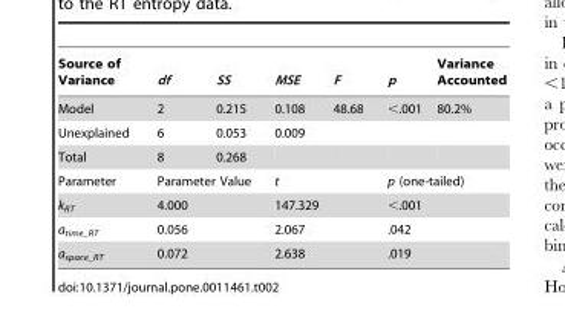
<table><thead><tr><td>Source of Variance</td><td>df</td><td>SS</td><td>MSE</td><td>F</td><td>p</td><td>Variance Accounted</td></tr></thead><tbody><tr><td>Model</td><td>2</td><td>0.215</td><td>0.108</td><td>48.68</td><td>&lt;.001</td><td>80.2%</td></tr><tr><td>Unexplained</td><td>6</td><td>0.053</td><td>0.009</td><td></td><td></td><td></td></tr><tr><td>Total</td><td>8</td><td>0.268</td><td></td><td></td><td></td><td></td></tr><tr><td>Parameter</td><td colspan="2">Parameter Value</td><td colspan="2">t</td><td colspan="2">p (one-tailed)</td></tr><tr><td>k<sub>RT</sub></td><td colspan="2">4.000</td><td colspan="2">147.329</td><td colspan="2">&lt;.001</td></tr><tr><td>a<sub>time_RT</sub></td><td colspan="2">0.056</td><td colspan="2">2.067</td><td colspan="2">.042</td></tr><tr><td>a<sub>space_RT</sub></td><td colspan="2">0.072</td><td colspan="2">2.638</td><td colspan="2">.019</td></tr></tbody></table>